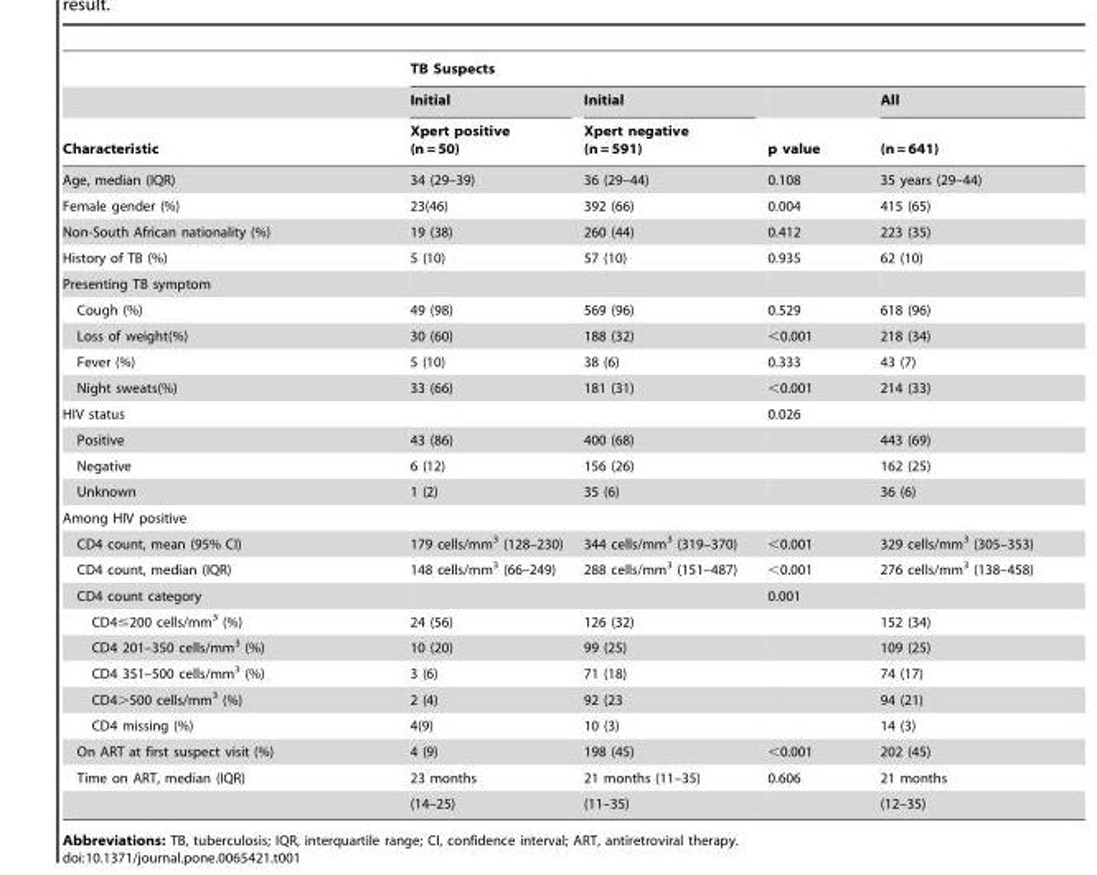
<table><thead><tr><td rowspan="3">Characteristic</td><td colspan="4">TB Suspects</td></tr><tr><td rowspan="2">Initial Xpert positive (n = 50)</td><td rowspan="2">Initial Xpert negative (n = 591)</td><td rowspan="2">p value</td><td rowspan="2">All (n = 641)</td></tr><tr></tr></thead><tbody><tr><td>Age, median (IQR)</td><td>34 (29–39)</td><td>36 (29–44)</td><td>0.108</td><td>35 years (29–44)</td></tr><tr><td>Female gender (%)</td><td>23(46)</td><td>392 (66)</td><td>0.004</td><td>415 (65)</td></tr><tr><td>Non-South African nationality (%)</td><td>19 (38)</td><td>260 (44)</td><td>0.412</td><td>223 (35)</td></tr><tr><td>History of TB (%)</td><td>5 (10)</td><td>57 (10)</td><td>0.935</td><td>62 (10)</td></tr><tr><td colspan="5">Presenting TB symptom</td></tr><tr><td>Cough (%)</td><td>49 (98)</td><td>569 (96)</td><td>0.529</td><td>618 (96)</td></tr><tr><td>Loss of weight(%)</td><td>30 (60)</td><td>188 (32)</td><td>&lt;0.001</td><td>218 (34)</td></tr><tr><td>Fever (%)</td><td>5 (10)</td><td>38 (6)</td><td>0.333</td><td>43 (7)</td></tr><tr><td>Night sweats(%)</td><td>33 (66)</td><td>181 (31)</td><td>&lt;0.001</td><td>214 (33)</td></tr><tr><td>HIV status</td><td></td><td></td><td>0.026</td><td></td></tr><tr><td>Positive</td><td>43 (86)</td><td>400 (68)</td><td></td><td>443 (69)</td></tr><tr><td>Negative</td><td>6 (12)</td><td>156 (26)</td><td></td><td>162 (25)</td></tr><tr><td>Unknown</td><td>1 (2)</td><td>35 (6)</td><td></td><td>36 (6)</td></tr><tr><td colspan="5">Among HIV positive</td></tr><tr><td>CD4 count, mean (95% CI)</td><td>179 cells/mm<sup>3</sup> (128–230)</td><td>344 cells/mm<sup>3</sup> (319–370)</td><td>&lt;0.001</td><td>329 cells/mm<sup>3</sup> (305–353)</td></tr><tr><td>CD4 count, median (IQR)</td><td>148 cells/mm<sup>3</sup> (66–249)</td><td>288 cells/mm<sup>3</sup> (151–487)</td><td>&lt;0.001</td><td>276 cells/mm<sup>3</sup> (138–458)</td></tr><tr><td>CD4 count category</td><td></td><td></td><td>0.001</td><td></td></tr><tr><td>CD4≤200 cells/mm<sup>3</sup> (%)</td><td>24 (56)</td><td>126 (32)</td><td></td><td>152 (34)</td></tr><tr><td>CD4 201–350 cells/mm<sup>3</sup> (%)</td><td>10 (20)</td><td>99 (25)</td><td></td><td>109 (25)</td></tr><tr><td>CD4 351–500 cells/mm<sup>3</sup> (%)</td><td>3 (6)</td><td>71 (18)</td><td></td><td>74 (17)</td></tr><tr><td>CD4&gt;500 cells/mm<sup>3</sup> (%)</td><td>2 (4)</td><td>92 (23</td><td></td><td>94 (21)</td></tr><tr><td>CD4 missing (%)</td><td>4(9)</td><td>10 (3)</td><td></td><td>14 (3)</td></tr><tr><td>On ART at first suspect visit (%)</td><td>4 (9)</td><td>198 (45)</td><td>&lt;0.001</td><td>202 (45)</td></tr><tr><td rowspan="2">Time on ART, median (IQR)</td><td>23 months</td><td>21 months (11–35)</td><td>0.606</td><td>21 months</td></tr><tr><td>(14–25)</td><td>(11–35)</td><td></td><td>(12–35)</td></tr></tbody></table>